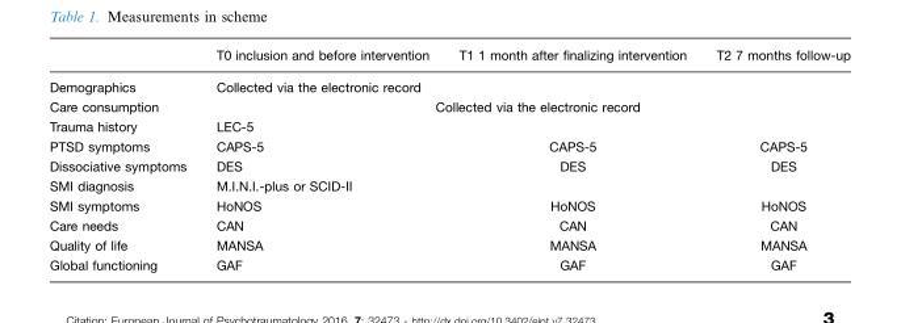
<table><thead><tr><td></td><td>T0 inclusion and before intervention</td><td>T1 1 month after finalizing intervention</td><td>T2 7 months follow-up</td></tr></thead><tbody><tr><td>Demographics</td><td>Collected via the electronic record</td><td></td><td></td></tr><tr><td>Care consumption</td><td></td><td>Collected via the electronic record</td><td></td></tr><tr><td>Trauma history</td><td>LEC-5</td><td></td><td></td></tr><tr><td>PTSD symptoms</td><td>CAPS-5</td><td>CAPS-5</td><td>CAPS-5</td></tr><tr><td>Dissociative symptoms</td><td>DES</td><td>DES</td><td>DES</td></tr><tr><td>SMI diagnosis</td><td>M.I.N.I.-plus or SCID-II</td><td></td><td></td></tr><tr><td>SMI symptoms</td><td>HoNOS</td><td>HoNOS</td><td>HoNOS</td></tr><tr><td>Care needs</td><td>CAN</td><td>CAN</td><td>CAN</td></tr><tr><td>Quality of life</td><td>MANSA</td><td>MANSA</td><td>MANSA</td></tr><tr><td>Global functioning</td><td>GAF</td><td>GAF</td><td>GAF</td></tr></tbody></table>